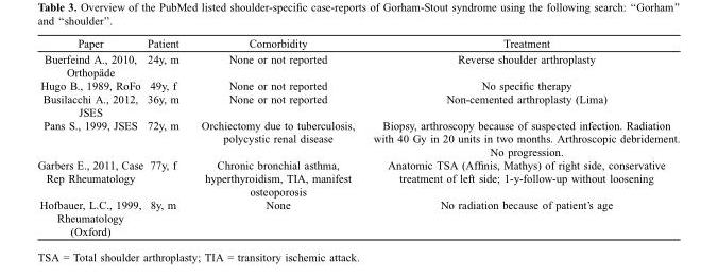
<table><thead><tr><td>Paper</td><td>Patient</td><td>Comorbidity</td><td>Treatment</td></tr></thead><tbody><tr><td>Buerfeind A., 2010, Orthopäde</td><td>24y, m</td><td>None or not reported</td><td>Reverse shoulder arthroplasty</td></tr><tr><td>Hugo B., 1989, RoFo</td><td>49y, f</td><td>None or not reported</td><td>No specific therapy</td></tr><tr><td>Busilacchi A., 2012, JSES</td><td>36y, m</td><td>None or not reported</td><td>Non-cemented arthroplasty (Lima)</td></tr><tr><td>Pans S., 1999, JSES</td><td>72y, m</td><td>Orchiectomy due to tuberculosis, polycystic renal disease</td><td>Biopsy, arthroscopy because of suspected infection. Radiation with 40 Gy in 20 units in two months. Arthroscopic debridement. No progression.</td></tr><tr><td>Garbers E., 2011, Case Rep Rheumatology</td><td>77y, f</td><td>Chronic bronchial asthma, hyperthyroidism, TIA, manifest osteoporosis</td><td>Anatomic TSA (Affinis, Mathys) of right side, conservative treatment of left side; 1-y-follow-up without loosening</td></tr><tr><td>Hofbauer, L.C., 1999, Rheumatology (Oxford)</td><td>8y, m</td><td>None</td><td>No radiation because of patient’s age</td></tr></tbody></table>